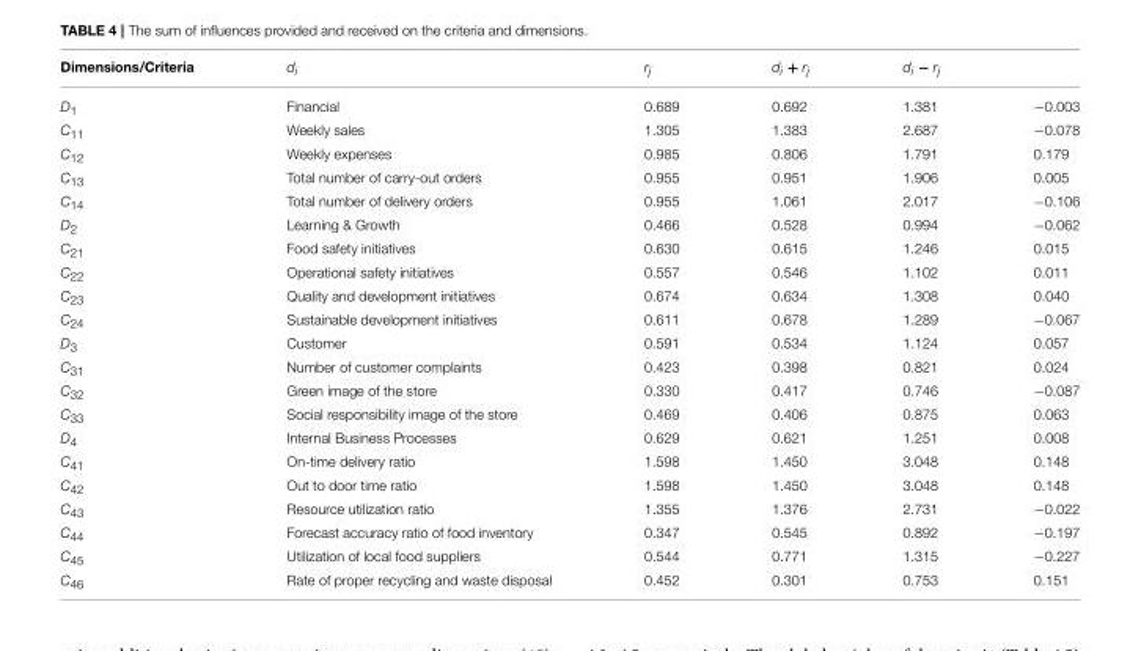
<table><thead><tr><td>Dimensions/Criteria</td><td>d<sub>i</sub></td><td>r<sub>j</sub></td><td>d<sub>i</sub> + r<sub>j</sub></td><td>d<sub>i</sub> − r<sub>j</sub></td><td></td></tr></thead><tbody><tr><td>D<sub>1</sub></td><td>Financial</td><td>0.689</td><td>0.692</td><td>1.381</td><td>−0.003</td></tr><tr><td>C<sub>11</sub></td><td>Weekly sales</td><td>1.305</td><td>1.383</td><td>2.687</td><td>−0.078</td></tr><tr><td>C<sub>12</sub></td><td>Weekly expenses</td><td>0.985</td><td>0.806</td><td>1.791</td><td>0.179</td></tr><tr><td>C<sub>13</sub></td><td>Total number of carry-out orders</td><td>0.955</td><td>0.951</td><td>1.906</td><td>0.005</td></tr><tr><td>C<sub>14</sub></td><td>Total number of delivery orders</td><td>0.955</td><td>1.061</td><td>2.017</td><td>−0.106</td></tr><tr><td>D<sub>2</sub></td><td>Learning &amp; Growth</td><td>0.466</td><td>0.528</td><td>0.994</td><td>−0.062</td></tr><tr><td>C<sub>21</sub></td><td>Food safety initiatives</td><td>0.630</td><td>0.615</td><td>1.246</td><td>0.015</td></tr><tr><td>C<sub>22</sub></td><td>Operational safety initiatives</td><td>0.557</td><td>0.546</td><td>1.102</td><td>0.011</td></tr><tr><td>C<sub>23</sub></td><td>Quality and development initiatives</td><td>0.674</td><td>0.634</td><td>1.308</td><td>0.040</td></tr><tr><td>C<sub>24</sub></td><td>Sustainable development initiatives</td><td>0.611</td><td>0.678</td><td>1.289</td><td>−0.067</td></tr><tr><td>D<sub>3</sub></td><td>Customer</td><td>0.591</td><td>0.534</td><td>1.124</td><td>0.057</td></tr><tr><td>C<sub>31</sub></td><td>Number of customer complaints</td><td>0.423</td><td>0.398</td><td>0.821</td><td>0.024</td></tr><tr><td>C<sub>32</sub></td><td>Green image of the store</td><td>0.330</td><td>0.417</td><td>0.746</td><td>−0.087</td></tr><tr><td>C<sub>33</sub></td><td>Social responsibility image of the store</td><td>0.469</td><td>0.406</td><td>0.875</td><td>0.063</td></tr><tr><td>D<sub>4</sub></td><td>Internal Business Processes</td><td>0.629</td><td>0.621</td><td>1.251</td><td>0.008</td></tr><tr><td>C<sub>41</sub></td><td>On-time delivery ratio</td><td>1.598</td><td>1.450</td><td>3.048</td><td>0.148</td></tr><tr><td>C<sub>42</sub></td><td>Out to door time ratio</td><td>1.598</td><td>1.450</td><td>3.048</td><td>0.148</td></tr><tr><td>C<sub>43</sub></td><td>Resource utilization ratio</td><td>1.355</td><td>1.376</td><td>2.731</td><td>−0.022</td></tr><tr><td>C<sub>44</sub></td><td>Forecast accuracy ratio of food inventory</td><td>0.347</td><td>0.545</td><td>0.892</td><td>−0.197</td></tr><tr><td>C<sub>45</sub></td><td>Utilization of local food suppliers</td><td>0.544</td><td>0.771</td><td>1.315</td><td>−0.227</td></tr><tr><td>C<sub>46</sub></td><td>Rate of proper recycling and waste disposal</td><td>0.452</td><td>0.301</td><td>0.753</td><td>0.151</td></tr></tbody></table>